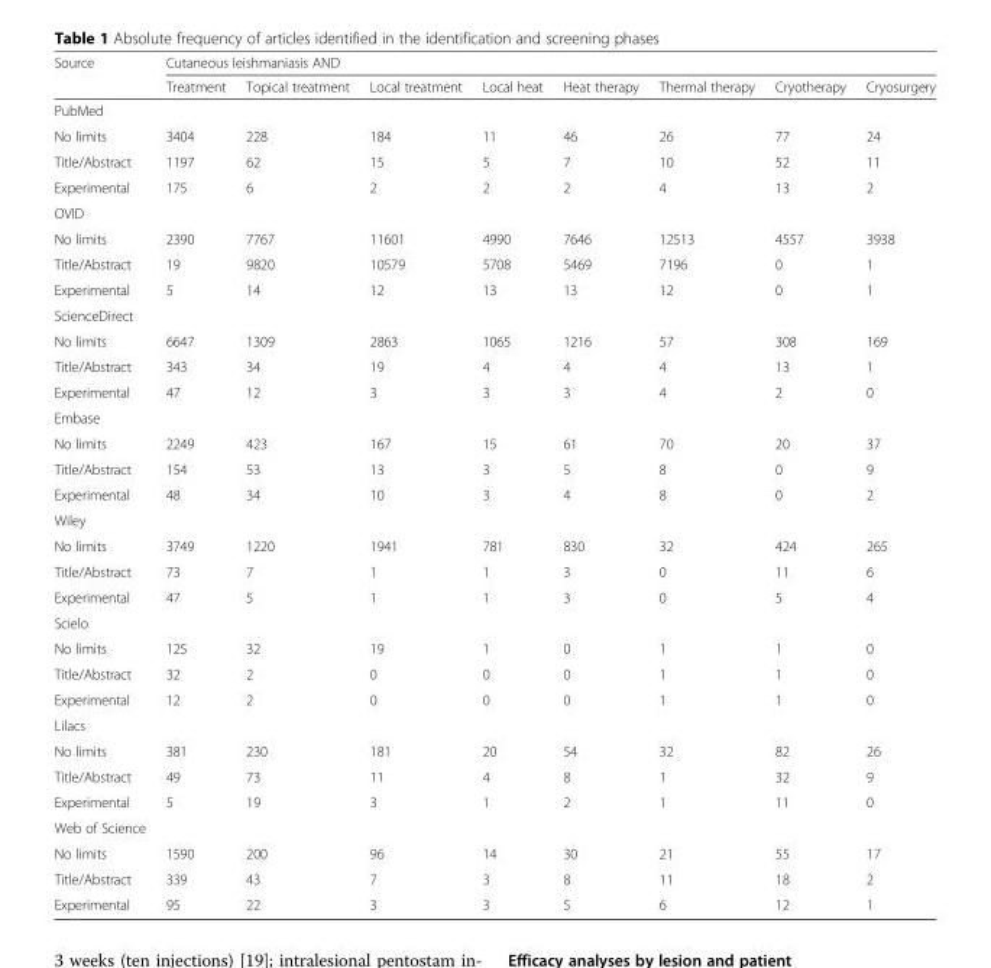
<table><thead><tr><td rowspan="2">Source</td><td colspan="8">Cutaneous leishmaniasis AND</td></tr><tr><td>Treatment</td><td>Topical treatment</td><td>Local treatment</td><td>Local heat</td><td>Heat therapy</td><td>Thermal therapy</td><td>Cryotherapy</td><td>Cryosurgery</td></tr></thead><tbody><tr><td colspan="9">PubMed</td></tr><tr><td>No limits</td><td>3404</td><td>228</td><td>184</td><td>11</td><td>46</td><td>26</td><td>77</td><td>24</td></tr><tr><td>Title/Abstract</td><td>1197</td><td>62</td><td>15</td><td>5</td><td>7</td><td>10</td><td>52</td><td>11</td></tr><tr><td>Experimental</td><td>175</td><td>6</td><td>2</td><td>2</td><td>2</td><td>4</td><td>13</td><td>2</td></tr><tr><td colspan="9">OVID</td></tr><tr><td>No limits</td><td>2390</td><td>7767</td><td>11601</td><td>4990</td><td>7646</td><td>12513</td><td>4557</td><td>3938</td></tr><tr><td>Title/Abstract</td><td>19</td><td>9820</td><td>10579</td><td>5708</td><td>5469</td><td>7196</td><td>0</td><td>1</td></tr><tr><td>Experimental</td><td>5</td><td>14</td><td>12</td><td>13</td><td>13</td><td>12</td><td>0</td><td>1</td></tr><tr><td colspan="9">ScienceDirect</td></tr><tr><td>No limits</td><td>6647</td><td>1309</td><td>2863</td><td>1065</td><td>1216</td><td>57</td><td>308</td><td>169</td></tr><tr><td>Title/Abstract</td><td>343</td><td>34</td><td>19</td><td>4</td><td>4</td><td>4</td><td>13</td><td>1</td></tr><tr><td>Experimental</td><td>47</td><td>12</td><td>3</td><td>3</td><td>3</td><td>4</td><td>2</td><td>0</td></tr><tr><td colspan="9">Embase</td></tr><tr><td>No limits</td><td>2249</td><td>423</td><td>167</td><td>15</td><td>61</td><td>70</td><td>20</td><td>37</td></tr><tr><td>Title/Abstract</td><td>154</td><td>53</td><td>13</td><td>3</td><td>5</td><td>8</td><td>0</td><td>9</td></tr><tr><td>Experimental</td><td>48</td><td>34</td><td>10</td><td>3</td><td>4</td><td>8</td><td>0</td><td>2</td></tr><tr><td colspan="9">Wiley</td></tr><tr><td>No limits</td><td>3749</td><td>1220</td><td>1941</td><td>781</td><td>830</td><td>32</td><td>424</td><td>265</td></tr><tr><td>Title/Abstract</td><td>73</td><td>7</td><td>1</td><td>1</td><td>3</td><td>0</td><td>11</td><td>6</td></tr><tr><td>Experimental</td><td>47</td><td>5</td><td>1</td><td>1</td><td>3</td><td>0</td><td>5</td><td>4</td></tr><tr><td colspan="9">Scielo</td></tr><tr><td>No limits</td><td>125</td><td>32</td><td>19</td><td>1</td><td>0</td><td>1</td><td>1</td><td>0</td></tr><tr><td>Title/Abstract</td><td>32</td><td>2</td><td>0</td><td>0</td><td>0</td><td>1</td><td>1</td><td>0</td></tr><tr><td>Experimental</td><td>12</td><td>2</td><td>0</td><td>0</td><td>0</td><td>1</td><td>1</td><td>0</td></tr><tr><td colspan="9">Lilacs</td></tr><tr><td>No limits</td><td>381</td><td>230</td><td>181</td><td>20</td><td>54</td><td>32</td><td>82</td><td>26</td></tr><tr><td>Title/Abstract</td><td>49</td><td>73</td><td>11</td><td>4</td><td>8</td><td>1</td><td>32</td><td>9</td></tr><tr><td>Experimental</td><td>5</td><td>19</td><td>3</td><td>1</td><td>2</td><td>1</td><td>11</td><td>0</td></tr><tr><td colspan="9">Web of Science</td></tr><tr><td>No limits</td><td>1590</td><td>200</td><td>96</td><td>14</td><td>30</td><td>21</td><td>55</td><td>17</td></tr><tr><td>Title/Abstract</td><td>339</td><td>43</td><td>7</td><td>3</td><td>8</td><td>11</td><td>18</td><td>2</td></tr><tr><td>Experimental</td><td>95</td><td>22</td><td>3</td><td>3</td><td>5</td><td>6</td><td>12</td><td>1</td></tr></tbody></table>